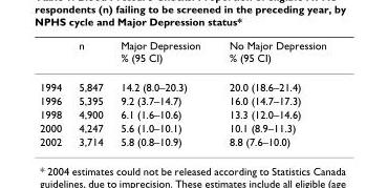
<table><thead><tr><td></td><td>n</td><td>Major Depression % (95 CI)</td><td>No Major Depression % (95 CI)</td></tr></thead><tbody><tr><td>1994</td><td>5,847</td><td>14.2 (8.0–20.3)</td><td>20.0 (18.6–21.4)</td></tr><tr><td>1996</td><td>5,395</td><td>9.2 (3.7–14.7)</td><td>16.0 (14.7–17.3)</td></tr><tr><td>1998</td><td>4,900</td><td>6.1 (1.6–10.6)</td><td>13.3 (12.0–14.6)</td></tr><tr><td>2000</td><td>4,247</td><td>5.6 (1.0–10.1)</td><td>10.1 (8.9–11.3)</td></tr><tr><td>2002</td><td>3,714</td><td>5.8 (0.8–10.9)</td><td>8.8 (7.6–10.0)</td></tr></tbody></table>